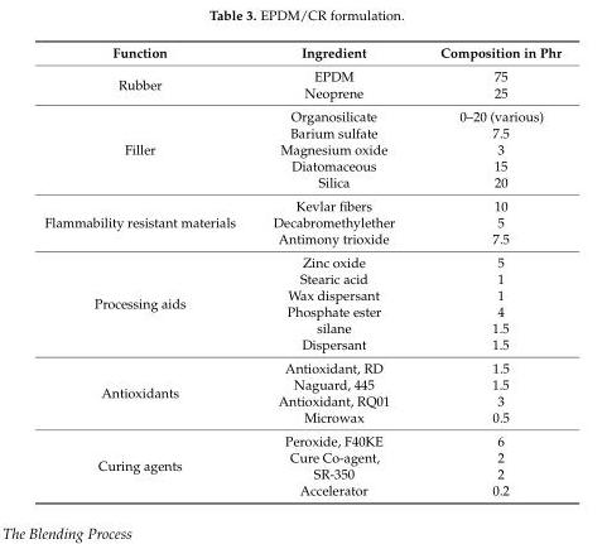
<table><thead><tr><td>Function</td><td>Ingredient</td><td>Composition in Phr</td></tr></thead><tbody><tr><td>Rubber</td><td>EPDM Neoprene</td><td>75 25</td></tr><tr><td>Filler</td><td>Organosilicate Barium sulfate Magnesium oxide Diatomaceous Silica</td><td>0–20 (various) 7.5 3 15 20</td></tr><tr><td>Flammability resistant materials</td><td>Kevlar fibers Decabromethylether Antimony trioxide</td><td>10 5 7.5</td></tr><tr><td>Processing aids</td><td>Zinc oxide Stearic acid Wax dispersant Phosphate ester silane Dispersant</td><td>5 1 1 4 1.5 1.5</td></tr><tr><td>Antioxidants</td><td>Antioxidant, RD Naguard, 445 Antioxidant, RQ01 Microwax</td><td>1.5 1.5 3 0.5</td></tr><tr><td>Curing agents</td><td>Peroxide, F40KE Cure Co-agent, SR-350 Accelerator</td><td>6 2 2 0.2</td></tr></tbody></table>